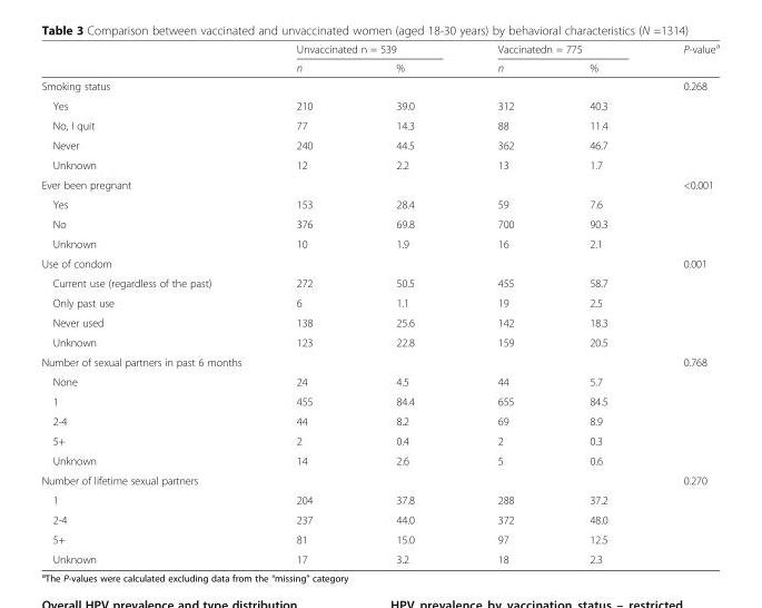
<table><thead><tr><td rowspan="2"></td><td colspan="2">Unvaccinated n = 539</td><td colspan="2">Vaccinatedn = 775</td><td rowspan="2">P-value<sup>a</sup></td></tr><tr><td>n</td><td>%</td><td>n</td><td>%</td></tr></thead><tbody><tr><td>Smoking status</td><td></td><td></td><td></td><td></td><td>0.268</td></tr><tr><td>Yes</td><td>210</td><td>39.0</td><td>312</td><td>40.3</td><td></td></tr><tr><td>No, I quit</td><td>77</td><td>14.3</td><td>88</td><td>11.4</td><td></td></tr><tr><td>Never</td><td>240</td><td>44.5</td><td>362</td><td>46.7</td><td></td></tr><tr><td>Unknown</td><td>12</td><td>2.2</td><td>13</td><td>1.7</td><td></td></tr><tr><td>Ever been pregnant</td><td></td><td></td><td></td><td></td><td>&lt;0.001</td></tr><tr><td>Yes</td><td>153</td><td>28.4</td><td>59</td><td>7.6</td><td></td></tr><tr><td>No</td><td>376</td><td>69.8</td><td>700</td><td>90.3</td><td></td></tr><tr><td>Unknown</td><td>10</td><td>1.9</td><td>16</td><td>2.1</td><td></td></tr><tr><td>Use of condom</td><td></td><td></td><td></td><td></td><td>0.001</td></tr><tr><td>Current use (regardless of the past)</td><td>272</td><td>50.5</td><td>455</td><td>58.7</td><td></td></tr><tr><td>Only past use</td><td>6</td><td>1.1</td><td>19</td><td>2.5</td><td></td></tr><tr><td>Never used</td><td>138</td><td>25.6</td><td>142</td><td>18.3</td><td></td></tr><tr><td>Unknown</td><td>123</td><td>22.8</td><td>159</td><td>20.5</td><td></td></tr><tr><td>Number of sexual partners in past 6 months</td><td></td><td></td><td></td><td></td><td>0.768</td></tr><tr><td>None</td><td>24</td><td>4.5</td><td>44</td><td>5.7</td><td></td></tr><tr><td>1</td><td>455</td><td>84.4</td><td>655</td><td>84.5</td><td></td></tr><tr><td>2-4</td><td>44</td><td>8.2</td><td>69</td><td>8.9</td><td></td></tr><tr><td>5+</td><td>2</td><td>0.4</td><td>2</td><td>0.3</td><td></td></tr><tr><td>Unknown</td><td>14</td><td>2.6</td><td>5</td><td>0.6</td><td></td></tr><tr><td>Number of lifetime sexual partners</td><td></td><td></td><td></td><td></td><td>0.270</td></tr><tr><td>1</td><td>204</td><td>37.8</td><td>288</td><td>37.2</td><td></td></tr><tr><td>2-4</td><td>237</td><td>44.0</td><td>372</td><td>48.0</td><td></td></tr><tr><td>5+</td><td>81</td><td>15.0</td><td>97</td><td>12.5</td><td></td></tr><tr><td>Unknown</td><td>17</td><td>3.2</td><td>18</td><td>2.3</td><td></td></tr></tbody></table>